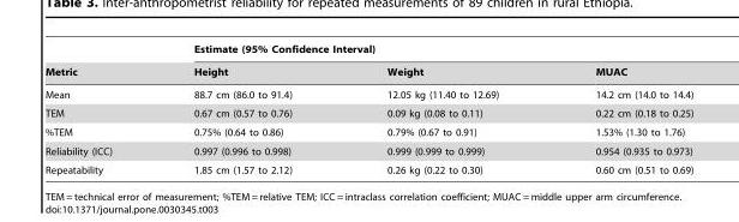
<table><thead><tr><td rowspan="2">Metric</td><td colspan="3">Estimate (95% Confidence Interval)</td></tr><tr><td>Height</td><td>Weight</td><td>MUAC</td></tr></thead><tbody><tr><td>Mean</td><td>88.7 cm (86.0 to 91.4)</td><td>12.05 kg (11.40 to 12.69)</td><td>14.2 cm (14.0 to 14.4)</td></tr><tr><td>TEM</td><td>0.67 cm (0.57 to 0.76)</td><td>0.09 kg (0.08 to 0.11)</td><td>0.22 cm (0.18 to 0.25)</td></tr><tr><td>%TEM</td><td>0.75% (0.64 to 0.86)</td><td>0.79% (0.67 to 0.91)</td><td>1.53% (1.30 to 1.76)</td></tr><tr><td>Reliability (ICC)</td><td>0.997 (0.996 to 0.998)</td><td>0.999 (0.999 to 0.999)</td><td>0.954 (0.935 to 0.973)</td></tr><tr><td>Repeatability</td><td>1.85 cm (1.57 to 2.12)</td><td>0.26 kg (0.22 to 0.30)</td><td>0.60 cm (0.51 to 0.69)</td></tr></tbody></table>